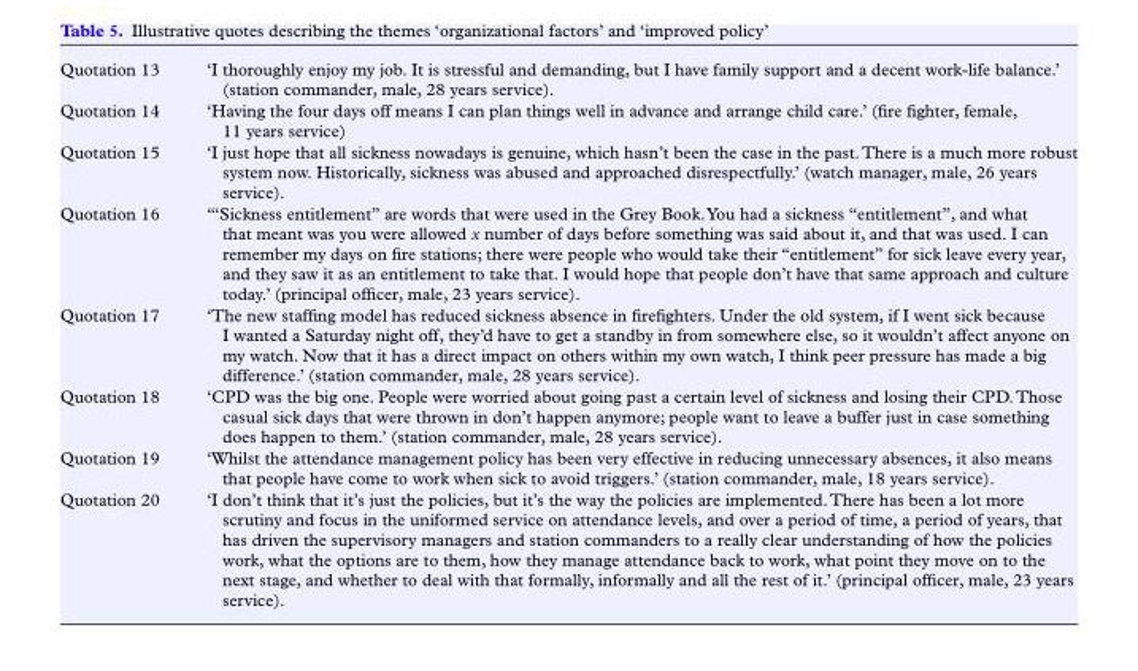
<table><tbody><tr><td>Quotation 13</td><td>‘I thoroughly enjoy my job. It is stressful and demanding, but I have family support and a decent work-life balance.’ (station commander, male, 28 years service).</td></tr><tr><td>Quotation 14</td><td>‘Having the four days off means I can plan things well in advance and arrange child care.’ (fire fighter, female, 11 years service)</td></tr><tr><td>Quotation 15</td><td>‘I just hope that all sickness nowadays is genuine, which hasn’t been the case in the past. There is a much more robust system now. Historically, sickness was abused and approached disrespectfully.’ (watch manager, male, 26 years service).</td></tr><tr><td>Quotation 16</td><td>‘‘‘Sickness entitlement” are words that were used in the Grey Book. You had a sickness “entitlement”, and what that meant was you were allowed x number of days before something was said about it, and that was used. I can remember my days on fire stations; there were people who would take their “entitlement” for sick leave every year, and they saw it as an entitlement to take that. I would hope that people don’t have that same approach and culture today.’ (principal officer, male, 23 years service).</td></tr><tr><td>Quotation 17</td><td>‘The new staffing model has reduced sickness absence in firefighters. Under the old system, if I went sick because I wanted a Saturday night off, they’d have to get a standby in from somewhere else, so it wouldn’t affect anyone on my watch. Now that it has a direct impact on others within my own watch, I think peer pressure has made a big difference.’ (station commander, male, 28 years service).</td></tr><tr><td>Quotation 18</td><td>‘CPD was the big one. People were worried about going past a certain level of sickness and losing their CPD. Those casual sick days that were thrown in don’t happen anymore; people want to leave a buffer just in case something does happen to them.’ (station commander, male, 28 years service).</td></tr><tr><td>Quotation 19</td><td>‘Whilst the attendance management policy has been very effective in reducing unnecessary absences, it also means that people have come to work when sick to avoid triggers.’ (station commander, male, 18 years service).</td></tr><tr><td>Quotation 20</td><td>‘I don’t think that it’s just the policies, but it’s the way the policies are implemented. There has been a lot more scrutiny and focus in the uniformed service on attendance levels, and over a period of time, a period of years, that has driven the supervisory managers and station commanders to a really clear understanding of how the policies work, what the options are to them, how they manage attendance back to work, what point they move on to the next stage, and whether to deal with that formally, informally and all the rest of it.’ (principal officer, male, 23 years service).</td></tr></tbody></table>